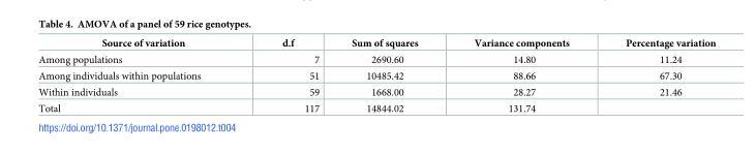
<table><thead><tr><td>Source of variation</td><td>d.f</td><td>Sum of squares</td><td>Variance components</td><td>Percentage variation</td></tr></thead><tbody><tr><td>Among populations</td><td>7</td><td>2690.60</td><td>14.80</td><td>11.24</td></tr><tr><td>Among individuals within populations</td><td>51</td><td>10485.42</td><td>88.66</td><td>67.30</td></tr><tr><td>Within individuals</td><td>59</td><td>1668.00</td><td>28.27</td><td>21.46</td></tr><tr><td>Total</td><td>117</td><td>14844.02</td><td>131.74</td><td></td></tr></tbody></table>